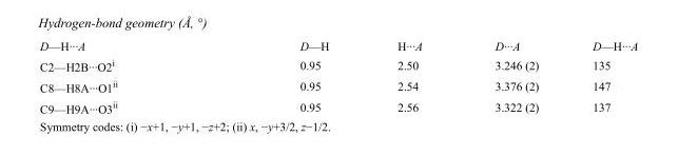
<table><tbody><tr><td>D—H···A</td><td>D—H</td><td>H···A</td><td>D···A</td><td>D—H···A</td></tr><tr><td>C2—H2B···O2<sup>i</sup></td><td>0.95</td><td>2.50</td><td>3.246 (2)</td><td>135</td></tr><tr><td>C8—H8A···O1<sup>ii</sup></td><td>0.95</td><td>2.54</td><td>3.376 (2)</td><td>147</td></tr><tr><td>C9—H9A···O3<sup>ii</sup></td><td>0.95</td><td>2.56</td><td>3.322 (2)</td><td>137</td></tr></tbody></table>